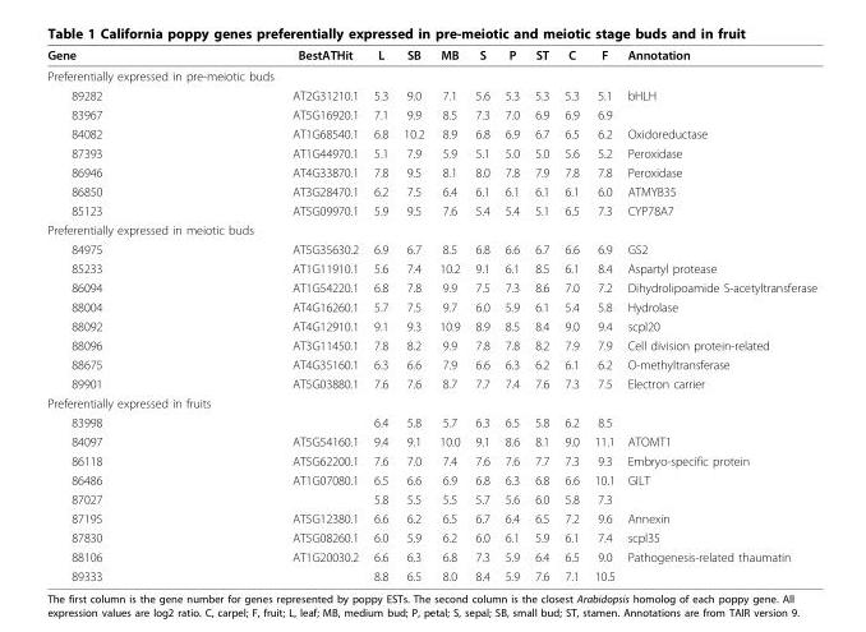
<table><thead><tr><td>Gene</td><td>BestATHit</td><td>L</td><td>SB</td><td>MB</td><td>S</td><td>P</td><td>ST</td><td>C</td><td>F</td><td>Annotation</td></tr></thead><tbody><tr><td colspan="11">Preferentially expressed in pre-meiotic buds</td></tr><tr><td>89282</td><td>AT2G31210.1</td><td>5.3</td><td>9.0</td><td>7.1</td><td>5.6</td><td>5.3</td><td>5.3</td><td>5.3</td><td>5.1</td><td>bHLH</td></tr><tr><td>83967</td><td>AT5G16920.1</td><td>7.1</td><td>9.9</td><td>8.5</td><td>7.3</td><td>7.0</td><td>6.9</td><td>6.9</td><td>6.9</td><td></td></tr><tr><td>84082</td><td>AT1G68540.1</td><td>6.8</td><td>10.2</td><td>8.9</td><td>6.8</td><td>6.9</td><td>6.7</td><td>6.5</td><td>6.2</td><td>Oxidoreductase</td></tr><tr><td>87393</td><td>AT1G44970.1</td><td>5.1</td><td>7.9</td><td>5.9</td><td>5.1</td><td>5.0</td><td>5.0</td><td>5.6</td><td>5.2</td><td>Peroxidase</td></tr><tr><td>86946</td><td>AT4G33870.1</td><td>7.8</td><td>9.5</td><td>8.1</td><td>8.0</td><td>7.8</td><td>7.9</td><td>7.8</td><td>7.8</td><td>Peroxidase</td></tr><tr><td>86850</td><td>AT3G28470.1</td><td>6.2</td><td>7.5</td><td>6.4</td><td>6.1</td><td>6.1</td><td>6.1</td><td>6.1</td><td>6.0</td><td>ATMYB35</td></tr><tr><td>85123</td><td>AT5G09970.1</td><td>5.9</td><td>9.5</td><td>7.6</td><td>5.4</td><td>5.4</td><td>5.1</td><td>6.5</td><td>7.3</td><td>CYP78A7</td></tr><tr><td colspan="11">Preferentially expressed in meiotic buds</td></tr><tr><td>84975</td><td>AT5G35630.2</td><td>6.9</td><td>6.7</td><td>8.5</td><td>6.8</td><td>6.6</td><td>6.7</td><td>6.6</td><td>6.9</td><td>GS2</td></tr><tr><td>85233</td><td>AT1G11910.1</td><td>5.6</td><td>7.4</td><td>10.2</td><td>9.1</td><td>6.1</td><td>8.5</td><td>6.1</td><td>8.4</td><td>Aspartyl protease</td></tr><tr><td>86094</td><td>AT1G54220.1</td><td>6.8</td><td>7.8</td><td>9.9</td><td>7.5</td><td>7.3</td><td>8.6</td><td>7.0</td><td>7.2</td><td>Dihydrolipoamide S-acetyltransferase</td></tr><tr><td>88004</td><td>AT4G16260.1</td><td>5.7</td><td>7.5</td><td>9.7</td><td>6.0</td><td>5.9</td><td>6.1</td><td>5.4</td><td>5.8</td><td>Hydrolase</td></tr><tr><td>88092</td><td>AT4G12910.1</td><td>9.1</td><td>9.3</td><td>10.9</td><td>8.9</td><td>8.5</td><td>8.4</td><td>9.0</td><td>9.4</td><td>scpl20</td></tr><tr><td>88096</td><td>AT3G11450.1</td><td>7.8</td><td>8.2</td><td>9.9</td><td>7.8</td><td>7.8</td><td>8.2</td><td>7.9</td><td>7.9</td><td>Cell division protein-related</td></tr><tr><td>88675</td><td>AT4G35160.1</td><td>6.3</td><td>6.6</td><td>7.9</td><td>6.6</td><td>6.3</td><td>6.2</td><td>6.1</td><td>6.2</td><td>O-methyltransferase</td></tr><tr><td>89901</td><td>AT5G03880.1</td><td>7.6</td><td>7.6</td><td>8.7</td><td>7.7</td><td>7.4</td><td>7.6</td><td>7.3</td><td>7.5</td><td>Electron carrier</td></tr><tr><td colspan="11">Preferentially expressed in fruits</td></tr><tr><td>83998</td><td></td><td>6.4</td><td>5.8</td><td>5.7</td><td>6.3</td><td>6.5</td><td>5.8</td><td>6.2</td><td>8.5</td><td></td></tr><tr><td>84097</td><td>AT5G54160.1</td><td>9.4</td><td>9.1</td><td>10.0</td><td>9.1</td><td>8.6</td><td>8.1</td><td>9.0</td><td>11.1</td><td>ATOMT1</td></tr><tr><td>86118</td><td>AT5G62200.1</td><td>7.6</td><td>7.0</td><td>7.4</td><td>7.6</td><td>7.6</td><td>7.7</td><td>7.3</td><td>9.3</td><td>Embryo-specific protein</td></tr><tr><td>86486</td><td>AT1G07080.1</td><td>6.5</td><td>6.6</td><td>6.9</td><td>6.8</td><td>6.3</td><td>6.8</td><td>6.6</td><td>10.1</td><td>GILT</td></tr><tr><td>87027</td><td></td><td>5.8</td><td>5.5</td><td>5.5</td><td>5.7</td><td>5.6</td><td>6.0</td><td>5.8</td><td>7.3</td><td></td></tr><tr><td>87195</td><td>AT5G12380.1</td><td>6.6</td><td>6.2</td><td>6.5</td><td>6.7</td><td>6.4</td><td>6.5</td><td>7.2</td><td>9.6</td><td>Annexin</td></tr><tr><td>87830</td><td>AT5G08260.1</td><td>6.0</td><td>5.9</td><td>6.2</td><td>6.0</td><td>6.1</td><td>5.9</td><td>6.1</td><td>7.4</td><td>scpl35</td></tr><tr><td>88106</td><td>AT1G20030.2</td><td>6.6</td><td>6.3</td><td>6.8</td><td>7.3</td><td>5.9</td><td>6.4</td><td>6.5</td><td>9.0</td><td>Pathogenesis-related thaumatin</td></tr><tr><td>89333</td><td></td><td>8.8</td><td>6.5</td><td>8.0</td><td>8.4</td><td>5.9</td><td>7.6</td><td>7.1</td><td>10.5</td><td></td></tr></tbody></table>